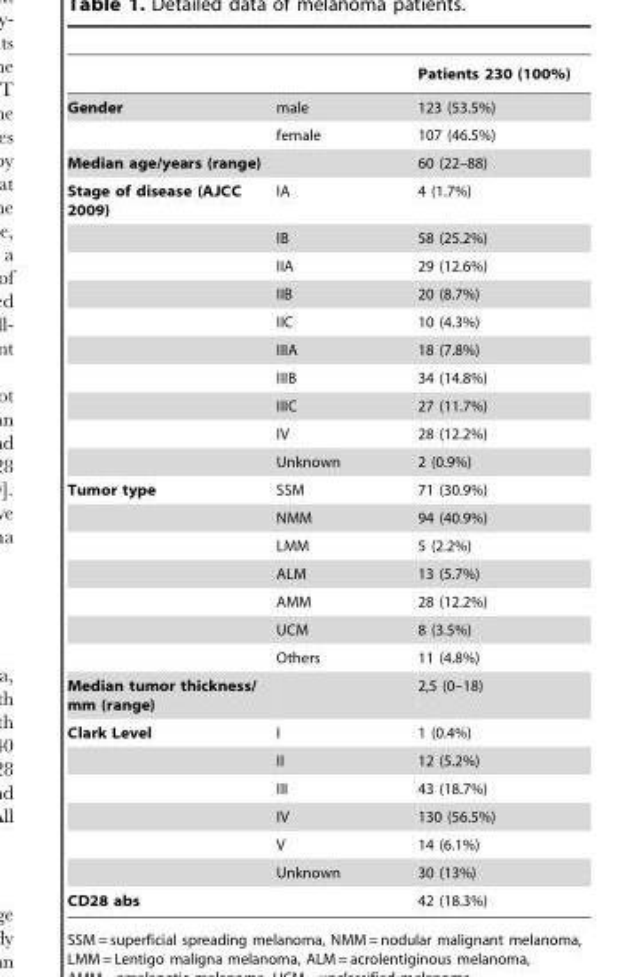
<table><thead><tr><td></td><td></td><td>Patients 230 (100%)</td></tr></thead><tbody><tr><td rowspan="2">Gender</td><td>male</td><td>123 (53.5%)</td></tr><tr><td>female</td><td>107 (46.5%)</td></tr><tr><td>Median age/years (range)</td><td></td><td>60 (22–88)</td></tr><tr><td rowspan="10">Stage of disease (AJCC 2009)</td><td>IA</td><td>4 (1.7%)</td></tr><tr><td>IB</td><td>58 (25.2%)</td></tr><tr><td>IIA</td><td>29 (12.6%)</td></tr><tr><td>IIB</td><td>20 (8.7%)</td></tr><tr><td>IIC</td><td>10 (4.3%)</td></tr><tr><td>IIIA</td><td>18 (7.8%)</td></tr><tr><td>IIIB</td><td>34 (14.8%)</td></tr><tr><td>IIIC</td><td>27 (11.7%)</td></tr><tr><td>IV</td><td>28 (12.2%)</td></tr><tr><td>Unknown</td><td>2 (0.9%)</td></tr><tr><td rowspan="7">Tumor type</td><td>SSM</td><td>71 (30.9%)</td></tr><tr><td>NMM</td><td>94 (40.9%)</td></tr><tr><td>LMM</td><td>5 (2.2%)</td></tr><tr><td>ALM</td><td>13 (5.7%)</td></tr><tr><td>AMM</td><td>28 (12.2%)</td></tr><tr><td>UCM</td><td>8 (3.5%)</td></tr><tr><td>Others</td><td>11 (4.8%)</td></tr><tr><td>Median tumor thickness/ mm (range)</td><td></td><td>2,5 (0–18)</td></tr><tr><td rowspan="6">Clark Level</td><td>I</td><td>1 (0.4%)</td></tr><tr><td>II</td><td>12 (5.2%)</td></tr><tr><td>III</td><td>43 (18.7%)</td></tr><tr><td>IV</td><td>130 (56.5%)</td></tr><tr><td>V</td><td>14 (6.1%)</td></tr><tr><td>Unknown</td><td>30 (13%)</td></tr><tr><td>CD28 abs</td><td></td><td>42 (18.3%)</td></tr></tbody></table>